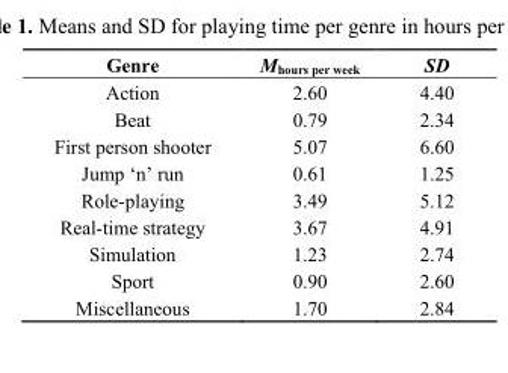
<table><thead><tr><td>Genre</td><td>M<sub>hours per week</sub></td><td>SD</td></tr></thead><tbody><tr><td>Action</td><td>2.60</td><td>4.40</td></tr><tr><td>Beat</td><td>0.79</td><td>2.34</td></tr><tr><td>First person shooter</td><td>5.07</td><td>6.60</td></tr><tr><td>Jump ‘n’ run</td><td>0.61</td><td>1.25</td></tr><tr><td>Role-playing</td><td>3.49</td><td>5.12</td></tr><tr><td>Real-time strategy</td><td>3.67</td><td>4.91</td></tr><tr><td>Simulation</td><td>1.23</td><td>2.74</td></tr><tr><td>Sport</td><td>0.90</td><td>2.60</td></tr><tr><td>Miscellaneous</td><td>1.70</td><td>2.84</td></tr></tbody></table>